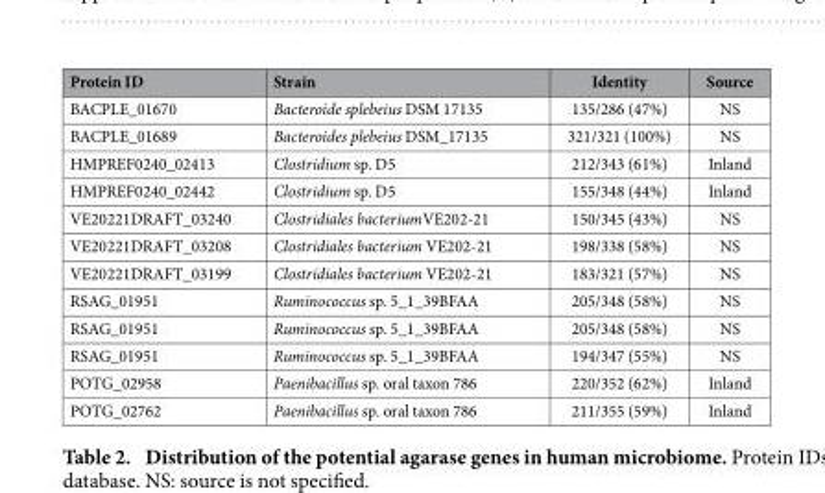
<table><thead><tr><td>Protein ID</td><td>Strain</td><td>Identity</td><td>Source</td></tr></thead><tbody><tr><td>BACPLE_01670</td><td>Bacteroide splebeius DSM 17135</td><td>135/286 (47%)</td><td>NS</td></tr><tr><td>BACPLE_01689</td><td>Bacteroides plebeius DSM_17135</td><td>321/321 (100%)</td><td>NS</td></tr><tr><td>HMPREF0240_02413</td><td>Clostridium sp. D5</td><td>212/343 (61%)</td><td>Inland</td></tr><tr><td>HMPREF0240_02442</td><td>Clostridium sp. D5</td><td>155/348 (44%)</td><td>Inland</td></tr><tr><td>VE20221DRAFT_03240</td><td>Clostridiales bacteriumVE202-21</td><td>150/345 (43%)</td><td>NS</td></tr><tr><td>VE20221DRAFT_03208</td><td>Clostridiales bacterium VE202-21</td><td>198/338 (58%)</td><td>NS</td></tr><tr><td>VE20221DRAFT_03199</td><td>Clostridiales bacterium VE202-21</td><td>183/321 (57%)</td><td>NS</td></tr><tr><td>RSAG_01951</td><td>Ruminococcus sp. 5_1_39BFAA</td><td>205/348 (58%)</td><td>NS</td></tr><tr><td>RSAG_01951</td><td>Ruminococcus sp. 5_1_39BFAA</td><td>205/348 (58%)</td><td>NS</td></tr><tr><td>RSAG_01951</td><td>Ruminococcus sp. 5_1_39BFAA</td><td>194/347 (55%)</td><td>NS</td></tr><tr><td>POTG_02958</td><td>Paenibacillus sp. oral taxon 786</td><td>220/352 (62%)</td><td>Inland</td></tr><tr><td>POTG_02762</td><td>Paenibacillus sp. oral taxon 786</td><td>211/355 (59%)</td><td>Inland</td></tr></tbody></table>